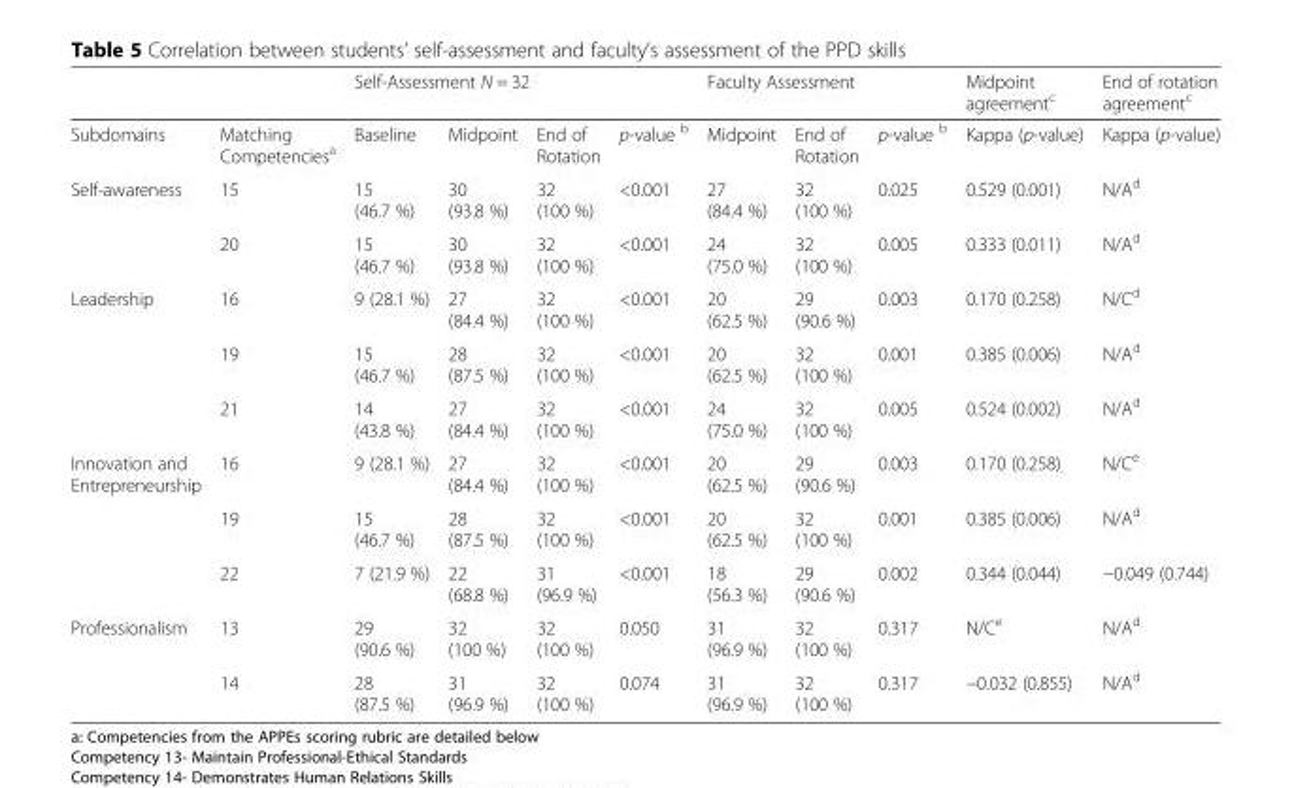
<table><thead><tr><td rowspan="2">Subdomains</td><td rowspan="2">Matching Competencies<sup>a</sup></td><td colspan="4">Self-Assessment N = 32</td><td colspan="3">Faculty Assessment</td><td rowspan="2">Midpoint agreement<sup>c</sup> Kappa (p-value)</td><td rowspan="2">End of rotation agreement<sup>c</sup> Kappa (p-value)</td></tr><tr><td>Baseline</td><td>Midpoint</td><td>End of Rotation</td><td>p-value <sup>b</sup></td><td>Midpoint</td><td>End of Rotation</td><td>p-value <sup>b</sup></td></tr></thead><tbody><tr><td rowspan="2">Self-awareness</td><td>15</td><td>15 (46.7 %)</td><td>30 (93.8 %)</td><td>32 (100 %)</td><td>&lt;0.001</td><td>27 (84.4 %)</td><td>32 (100 %)</td><td>0.025</td><td>0.529 (0.001)</td><td>N/A<sup>d</sup></td></tr><tr><td>20</td><td>15 (46.7 %)</td><td>30 (93.8 %)</td><td>32 (100 %)</td><td>&lt;0.001</td><td>24 (75.0 %)</td><td>32 (100 %)</td><td>0.005</td><td>0.333 (0.011)</td><td>N/A<sup>d</sup></td></tr><tr><td rowspan="3">Leadership</td><td>16</td><td>9 (28.1 %)</td><td>27 (84.4 %)</td><td>32 (100 %)</td><td>&lt;0.001</td><td>20 (62.5 %)</td><td>29 (90.6 %)</td><td>0.003</td><td>0.170 (0.258)</td><td>N/C<sup>d</sup></td></tr><tr><td>19</td><td>15 (46.7 %)</td><td>28 (87.5 %)</td><td>32 (100 %)</td><td>&lt;0.001</td><td>20 (62.5 %)</td><td>32 (100 %)</td><td>0.001</td><td>0.385 (0.006)</td><td>N/A<sup>d</sup></td></tr><tr><td>21</td><td>14 (43.8 %)</td><td>27 (84.4 %)</td><td>32 (100 %)</td><td>&lt;0.001</td><td>24 (75.0 %)</td><td>32 (100 %)</td><td>0.005</td><td>0.524 (0.002)</td><td>N/A<sup>d</sup></td></tr><tr><td rowspan="3">Innovation and Entrepreneurship</td><td>16</td><td>9 (28.1 %)</td><td>27 (84.4 %)</td><td>32 (100 %)</td><td>&lt;0.001</td><td>20 (62.5 %)</td><td>29 (90.6 %)</td><td>0.003</td><td>0.170 (0.258)</td><td>N/C<sup>e</sup></td></tr><tr><td>19</td><td>15 (46.7 %)</td><td>28 (87.5 %)</td><td>32 (100 %)</td><td>&lt;0.001</td><td>20 (62.5 %)</td><td>32 (100 %)</td><td>0.001</td><td>0.385 (0.006)</td><td>N/A<sup>d</sup></td></tr><tr><td>22</td><td>7 (21.9 %)</td><td>22 (68.8 %)</td><td>31 (96.9 %)</td><td>&lt;0.001</td><td>18 (56.3 %)</td><td>29 (90.6 %)</td><td>0.002</td><td>0.344 (0.044)</td><td>−0.049 (0.744)</td></tr><tr><td rowspan="2">Professionalism</td><td>13</td><td>29 (90.6 %)</td><td>32 (100 %)</td><td>32 (100 %)</td><td>0.050</td><td>31 (96.9 %)</td><td>32 (100 %)</td><td>0.317</td><td>N/C<sup>e</sup></td><td>N/A<sup>d</sup></td></tr><tr><td>14</td><td>28 (87.5 %)</td><td>31 (96.9 %)</td><td>32 (100 %)</td><td>0.074</td><td>31 (96.9 %)</td><td>32 (100 %)</td><td>0.317</td><td>−0.032 (0.855)</td><td>N/A<sup>d</sup></td></tr></tbody></table>